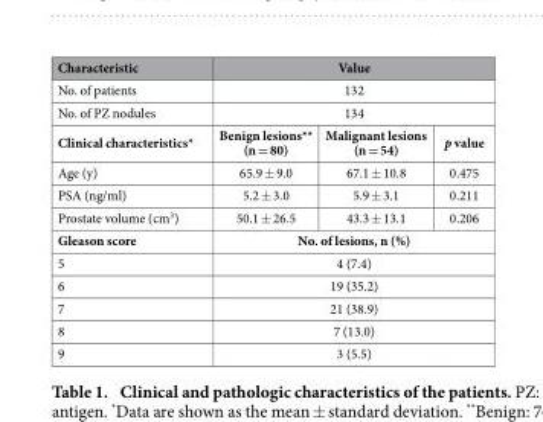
<table><thead><tr><td rowspan="4">Characteristic No. of patients No. of PZ nodules Clinical characteristics*</td><td rowspan="3" colspan="3">Value 132 134</td></tr><tr></tr><tr></tr><tr><td>Benign lesions** (n = 80)</td><td>Malignant lesions (n = 54)</td><td>p value</td></tr></thead><tbody><tr><td>Age (y)</td><td>65.9 ± 9.0</td><td>67.1 ± 10.8</td><td>0.475</td></tr><tr><td>PSA (ng/ml)</td><td>5.2 ± 3.0</td><td>5.9 ± 3.1</td><td>0.211</td></tr><tr><td>Prostate volume (cm<sup>3</sup>)</td><td>50.1 ± 26.5</td><td>43.3 ± 13.1</td><td>0.206</td></tr><tr><td>Gleason score</td><td colspan="3">No. of lesions, n (%)</td></tr><tr><td>5</td><td colspan="3">4 (7.4)</td></tr><tr><td>6</td><td colspan="3">19 (35.2)</td></tr><tr><td>7</td><td colspan="3">21 (38.9)</td></tr><tr><td>8</td><td colspan="3">7 (13.0)</td></tr><tr><td>9</td><td colspan="3">3 (5.5)</td></tr></tbody></table>